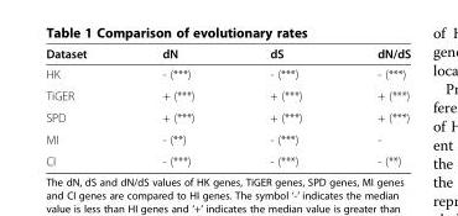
<table><thead><tr><td>Dataset</td><td>dN</td><td>dS</td><td>dN/dS</td></tr></thead><tbody><tr><td>HK</td><td>- (***)</td><td>- (***)</td><td>- (***)</td></tr><tr><td>TiGER</td><td>+ (***)</td><td>+ (***)</td><td>+ (***)</td></tr><tr><td>SPD</td><td>+ (***)</td><td>+ (***)</td><td>+ (***)</td></tr><tr><td>MI</td><td>- (**)</td><td>- (***)</td><td>-</td></tr><tr><td>CI</td><td>- (***)</td><td>- (***)</td><td>- (**)</td></tr></tbody></table>